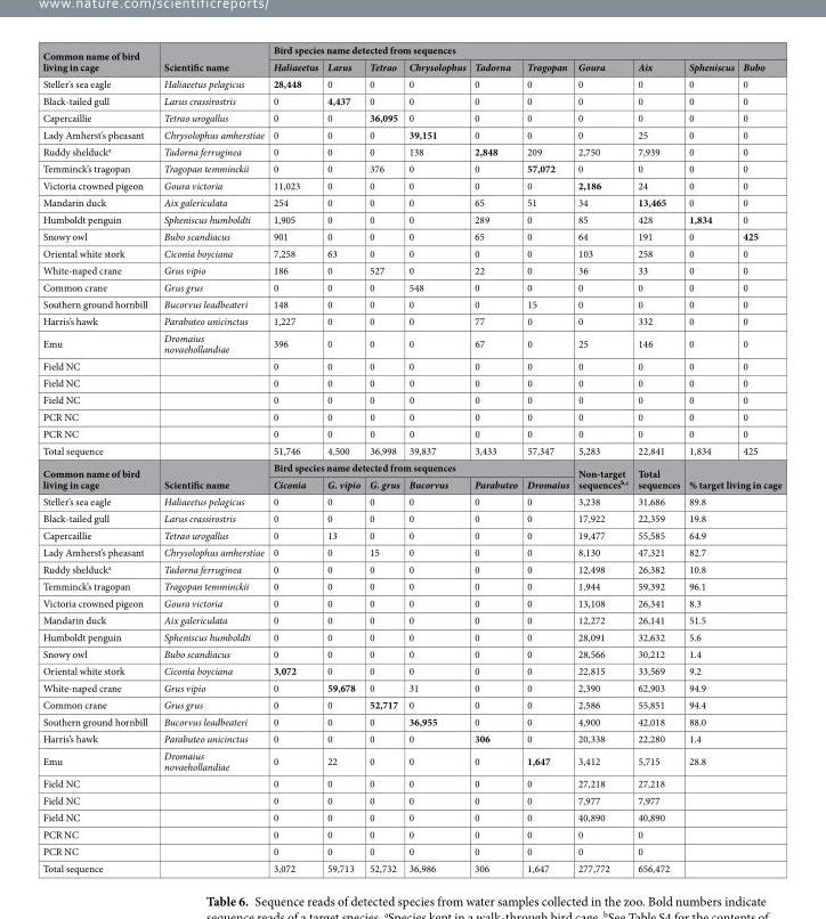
<table><thead><tr><td rowspan="2">Common name of bird living in cage</td><td rowspan="2">Scientific name</td><td colspan="10">Bird species name detected from sequences</td></tr><tr><td>Haliaeetus</td><td>Larus</td><td>Tetrao</td><td>Chrysolophus</td><td>Tadorna</td><td>Tragopan</td><td>Goura</td><td>Aix</td><td>Spheniscus</td><td>Bubo</td></tr></thead><tbody><tr><td>Steller’s sea eagle</td><td>Haliaeetus pelagicus</td><td>28,448</td><td>0</td><td>0</td><td>0</td><td>0</td><td>0</td><td>0</td><td>0</td><td>0</td><td>0</td></tr><tr><td>Black-tailed gull</td><td>Larus crassirostris</td><td>0</td><td>4,437</td><td>0</td><td>0</td><td>0</td><td>0</td><td>0</td><td>0</td><td>0</td><td>0</td></tr><tr><td>Capercaillie</td><td>Tetrao urogallus</td><td>0</td><td>0</td><td>36,095</td><td>0</td><td>0</td><td>0</td><td>0</td><td>0</td><td>0</td><td>0</td></tr><tr><td>Lady Amherst’s pheasant</td><td>Chrysolophus amherstiae</td><td>0</td><td>0</td><td>0</td><td>39,151</td><td>0</td><td>0</td><td>0</td><td>25</td><td>0</td><td>0</td></tr><tr><td>Ruddy shelduck<sup>a</sup></td><td>Tadorna ferruginea</td><td>0</td><td>0</td><td>0</td><td>138</td><td>2,848</td><td>209</td><td>2,750</td><td>7,939</td><td>0</td><td>0</td></tr><tr><td>Temminck’s tragopan</td><td>Tragopan temminckii</td><td>0</td><td>0</td><td>376</td><td>0</td><td>0</td><td>57,072</td><td>0</td><td>0</td><td>0</td><td>0</td></tr><tr><td>Victoria crowned pigeon</td><td>Goura victoria</td><td>11,023</td><td>0</td><td>0</td><td>0</td><td>0</td><td>0</td><td>2,186</td><td>24</td><td>0</td><td>0</td></tr><tr><td>Mandarin duck</td><td>Aix galericulata</td><td>254</td><td>0</td><td>0</td><td>0</td><td>65</td><td>51</td><td>34</td><td>13,465</td><td>0</td><td>0</td></tr><tr><td>Humboldt penguin</td><td>Spheniscus humboldti</td><td>1,905</td><td>0</td><td>0</td><td>0</td><td>289</td><td>0</td><td>85</td><td>428</td><td>1,834</td><td>0</td></tr><tr><td>Snowy owl</td><td>Bubo scandiacus</td><td>901</td><td>0</td><td>0</td><td>0</td><td>65</td><td>0</td><td>64</td><td>191</td><td>0</td><td>425</td></tr><tr><td>Oriental white stork</td><td>Ciconia boyciana</td><td>7,258</td><td>63</td><td>0</td><td>0</td><td>0</td><td>0</td><td>103</td><td>258</td><td>0</td><td>0</td></tr><tr><td>White-naped crane</td><td>Grus vipio</td><td>186</td><td>0</td><td>527</td><td>0</td><td>22</td><td>0</td><td>36</td><td>33</td><td>0</td><td>0</td></tr><tr><td>Common crane</td><td>Grus grus</td><td>0</td><td>0</td><td>0</td><td>548</td><td>0</td><td>0</td><td>0</td><td>0</td><td>0</td><td>0</td></tr><tr><td>Southern ground hornbill</td><td>Bucorvus leadbeateri</td><td>148</td><td>0</td><td>0</td><td>0</td><td>0</td><td>15</td><td>0</td><td>0</td><td>0</td><td>0</td></tr><tr><td>Harris’s hawk</td><td>Parabuteo unicinctus</td><td>1,227</td><td>0</td><td>0</td><td>0</td><td>77</td><td>0</td><td>0</td><td>332</td><td>0</td><td>0</td></tr><tr><td>Emu</td><td>Dromaius novaehollandiae</td><td>396</td><td>0</td><td>0</td><td>0</td><td>67</td><td>0</td><td>25</td><td>146</td><td>0</td><td>0</td></tr><tr><td>Field NC</td><td></td><td>0</td><td>0</td><td>0</td><td>0</td><td>0</td><td>0</td><td>0</td><td>0</td><td>0</td><td>0</td></tr><tr><td>Field NC</td><td></td><td>0</td><td>0</td><td>0</td><td>0</td><td>0</td><td>0</td><td>0</td><td>0</td><td>0</td><td>0</td></tr><tr><td>Field NC</td><td></td><td>0</td><td>0</td><td>0</td><td>0</td><td>0</td><td>0</td><td>0</td><td>0</td><td>0</td><td>0</td></tr><tr><td>PCR NC</td><td></td><td>0</td><td>0</td><td>0</td><td>0</td><td>0</td><td>0</td><td>0</td><td>0</td><td>0</td><td>0</td></tr><tr><td>PCR NC</td><td></td><td>0</td><td>0</td><td>0</td><td>0</td><td>0</td><td>0</td><td>0</td><td>0</td><td>0</td><td>0</td></tr><tr><td>Total sequence</td><td></td><td>51,746</td><td>4,500</td><td>36,998</td><td>39,837</td><td>3,433</td><td>57,347</td><td>5,283</td><td>22,841</td><td>1,834</td><td>425</td></tr><tr><td rowspan="2">Common name of bird living in cage</td><td rowspan="2">Scientific name</td><td colspan="6">Bird species name detected from sequences</td><td rowspan="2">Non-target sequences<sup>b,c</sup></td><td rowspan="2">Total sequences</td><td rowspan="2" colspan="2">% target living in cage</td></tr><tr><td>Ciconia</td><td>G. vipio</td><td>G. grus</td><td>Bucorvus</td><td>Parabuteo</td><td>Dromaius</td></tr><tr><td>Steller’s sea eagle</td><td>Haliaeetus pelagicus</td><td>0</td><td>0</td><td>0</td><td>0</td><td>0</td><td>0</td><td>3,238</td><td>31,686</td><td colspan="2">89.8</td></tr><tr><td>Black-tailed gull</td><td>Larus crassirostris</td><td>0</td><td>0</td><td>0</td><td>0</td><td>0</td><td>0</td><td>17,922</td><td>22,359</td><td colspan="2">19.8</td></tr><tr><td>Capercaillie</td><td>Tetrao urogallus</td><td>0</td><td>13</td><td>0</td><td>0</td><td>0</td><td>0</td><td>19,477</td><td>55,585</td><td colspan="2">64.9</td></tr><tr><td>Lady Amherst’s pheasant</td><td>Chrysolophus amherstiae</td><td>0</td><td>0</td><td>15</td><td>0</td><td>0</td><td>0</td><td>8,130</td><td>47,321</td><td colspan="2">82.7</td></tr><tr><td>Ruddy shelduck<sup>a</sup></td><td>Tadorna ferruginea</td><td>0</td><td>0</td><td>0</td><td>0</td><td>0</td><td>0</td><td>12,498</td><td>26,382</td><td colspan="2">10.8</td></tr><tr><td>Temminck’s tragopan</td><td>Tragopan temminckii</td><td>0</td><td>0</td><td>0</td><td>0</td><td>0</td><td>0</td><td>1,944</td><td>59,392</td><td colspan="2">96.1</td></tr><tr><td>Victoria crowned pigeon</td><td>Goura victoria</td><td>0</td><td>0</td><td>0</td><td>0</td><td>0</td><td>0</td><td>13,108</td><td>26,341</td><td colspan="2">8.3</td></tr><tr><td>Mandarin duck</td><td>Aix galericulata</td><td>0</td><td>0</td><td>0</td><td>0</td><td>0</td><td>0</td><td>12,272</td><td>26,141</td><td colspan="2">51.5</td></tr><tr><td>Humboldt penguin</td><td>Spheniscus humboldti</td><td>0</td><td>0</td><td>0</td><td>0</td><td>0</td><td>0</td><td>28,091</td><td>32,632</td><td colspan="2">5.6</td></tr><tr><td>Snowy owl</td><td>Bubo scandiacus</td><td>0</td><td>0</td><td>0</td><td>0</td><td>0</td><td>0</td><td>28,566</td><td>30,212</td><td colspan="2">1.4</td></tr><tr><td>Oriental white stork</td><td>Ciconia boyciana</td><td>3,072</td><td>0</td><td>0</td><td>0</td><td>0</td><td>0</td><td>22,815</td><td>33,569</td><td colspan="2">9.2</td></tr><tr><td>White-naped crane</td><td>Grus vipio</td><td>0</td><td>59,678</td><td>0</td><td>31</td><td>0</td><td>0</td><td>2,390</td><td>62,903</td><td colspan="2">94.9</td></tr><tr><td>Common crane</td><td>Grus grus</td><td>0</td><td>0</td><td>52,717</td><td>0</td><td>0</td><td>0</td><td>2,586</td><td>55,851</td><td colspan="2">94.4</td></tr><tr><td>Southern ground hornbill</td><td>Bucorvus leadbeateri</td><td>0</td><td>0</td><td>0</td><td>36,955</td><td>0</td><td>0</td><td>4,900</td><td>42,018</td><td colspan="2">88.0</td></tr><tr><td>Harris’s hawk</td><td>Parabuteo unicinctus</td><td>0</td><td>0</td><td>0</td><td>0</td><td>306</td><td>0</td><td>20,338</td><td>22,280</td><td colspan="2">1.4</td></tr><tr><td>Emu</td><td>Dromaius novaehollandiae</td><td>0</td><td>22</td><td>0</td><td>0</td><td>0</td><td>1,647</td><td>3,412</td><td>5,715</td><td colspan="2">28.8</td></tr><tr><td>Field NC</td><td></td><td>0</td><td>0</td><td>0</td><td>0</td><td>0</td><td>0</td><td>27,218</td><td>27,218</td><td colspan="2"></td></tr><tr><td>Field NC</td><td></td><td>0</td><td>0</td><td>0</td><td>0</td><td>0</td><td>0</td><td>7,977</td><td>7,977</td><td colspan="2"></td></tr><tr><td>Field NC</td><td></td><td>0</td><td>0</td><td>0</td><td>0</td><td>0</td><td>0</td><td>40,890</td><td>40,890</td><td colspan="2"></td></tr><tr><td>PCR NC</td><td></td><td>0</td><td>0</td><td>0</td><td>0</td><td>0</td><td>0</td><td>0</td><td>0</td><td colspan="2"></td></tr><tr><td>PCR NC</td><td></td><td>0</td><td>0</td><td>0</td><td>0</td><td>0</td><td>0</td><td>0</td><td>0</td><td colspan="2"></td></tr><tr><td>Total sequence</td><td></td><td>3,072</td><td>59,713</td><td>52,732</td><td>36,986</td><td>306</td><td>1,647</td><td>277,772</td><td>656,472</td><td colspan="2"></td></tr></tbody></table>